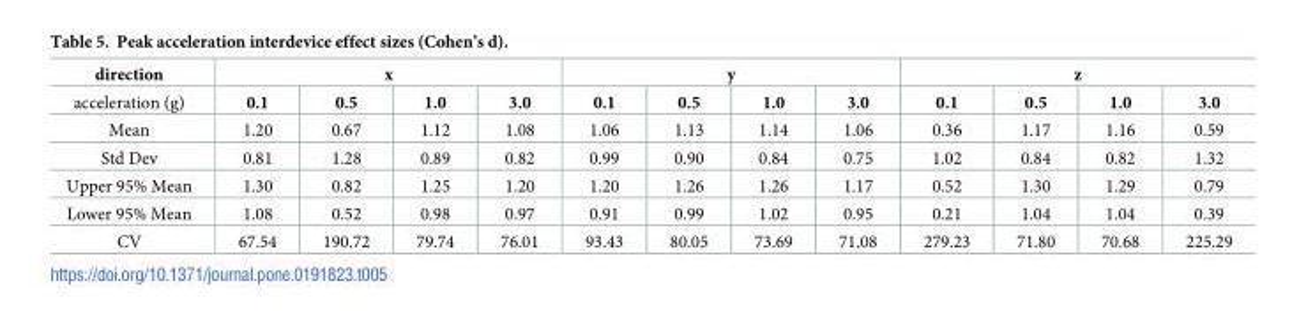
<table><thead><tr><td rowspan="2">direction acceleration (g)</td><td colspan="4">x</td><td colspan="4">y</td><td colspan="4">z</td></tr><tr><td>0.1</td><td>0.5</td><td>1.0</td><td>3.0</td><td>0.1</td><td>0.5</td><td>1.0</td><td>3.0</td><td>0.1</td><td>0.5</td><td>1.0</td><td>3.0</td></tr></thead><tbody><tr><td>Mean</td><td>1.20</td><td>0.67</td><td>1.12</td><td>1.08</td><td>1.06</td><td>1.13</td><td>1.14</td><td>1.06</td><td>0.36</td><td>1.17</td><td>1.16</td><td>0.59</td></tr><tr><td>Std Dev</td><td>0.81</td><td>1.28</td><td>0.89</td><td>0.82</td><td>0.99</td><td>0.90</td><td>0.84</td><td>0.75</td><td>1.02</td><td>0.84</td><td>0.82</td><td>1.32</td></tr><tr><td>Upper 95% Mean</td><td>1.30</td><td>0.82</td><td>1.25</td><td>1.20</td><td>1.20</td><td>1.26</td><td>1.26</td><td>1.17</td><td>0.52</td><td>1.30</td><td>1.29</td><td>0.79</td></tr><tr><td>Lower 95% Mean</td><td>1.08</td><td>0.52</td><td>0.98</td><td>0.97</td><td>0.91</td><td>0.99</td><td>1.02</td><td>0.95</td><td>0.21</td><td>1.04</td><td>1.04</td><td>0.39</td></tr><tr><td>CV</td><td>67.54</td><td>190.72</td><td>79.74</td><td>76.01</td><td>93.43</td><td>80.05</td><td>73.69</td><td>71.08</td><td>279.23</td><td>71.80</td><td>70.68</td><td>225.29</td></tr></tbody></table>